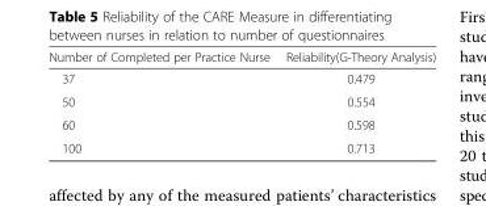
<table><thead><tr><td>Number of Completed per Practice Nurse</td><td>Reliability(G-Theory Analysis)</td></tr></thead><tbody><tr><td>37</td><td>0.479</td></tr><tr><td>50</td><td>0.554</td></tr><tr><td>60</td><td>0.598</td></tr><tr><td>100</td><td>0.713</td></tr></tbody></table>